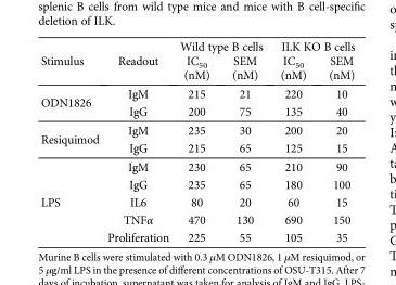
<table><thead><tr><td rowspan="2">Stimulus</td><td rowspan="2">Readout</td><td colspan="2">Wild type B cells</td><td colspan="2">ILK KO B cells</td></tr><tr><td>IC<sub>50</sub> (nM)</td><td>SEM (nM)</td><td>IC<sub>50</sub> (nM)</td><td>SEM (nM)</td></tr></thead><tbody><tr><td rowspan="2">ODN1826</td><td>IgM</td><td>215</td><td>21</td><td>220</td><td>10</td></tr><tr><td>IgG</td><td>200</td><td>75</td><td>135</td><td>40</td></tr><tr><td rowspan="2">Resiquimod</td><td>IgM</td><td>235</td><td>30</td><td>200</td><td>20</td></tr><tr><td>IgG</td><td>215</td><td>65</td><td>125</td><td>15</td></tr><tr><td rowspan="5">LPS</td><td>IgM</td><td>230</td><td>65</td><td>210</td><td>90</td></tr><tr><td>IgG</td><td>235</td><td>65</td><td>180</td><td>100</td></tr><tr><td>IL6</td><td>80</td><td>20</td><td>60</td><td>15</td></tr><tr><td>TNFα</td><td>470</td><td>130</td><td>690</td><td>150</td></tr><tr><td>Proliferation</td><td>225</td><td>55</td><td>105</td><td>35</td></tr></tbody></table>